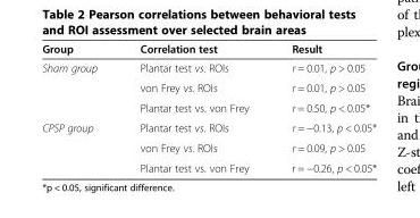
<table><thead><tr><td>Group</td><td>Correlation test</td><td>Result</td></tr></thead><tbody><tr><td rowspan="3">Sham group</td><td>Plantar test vs. ROIs</td><td>r = 0.01, p &gt; 0.05</td></tr><tr><td>von Frey vs. ROIs</td><td>r = 0.01, p &gt; 0.05</td></tr><tr><td>Plantar test vs. von Frey</td><td>r = 0.50, p &lt; 0.05*</td></tr><tr><td rowspan="3">CPSP group</td><td>Plantar test vs. ROIs</td><td>r = −0.13, p &lt; 0.05*</td></tr><tr><td>von Frey vs. ROIs</td><td>r = 0.09, p &gt; 0.05</td></tr><tr><td>Plantar test vs. von Frey</td><td>r = −0.26, p &lt; 0.05*</td></tr></tbody></table>